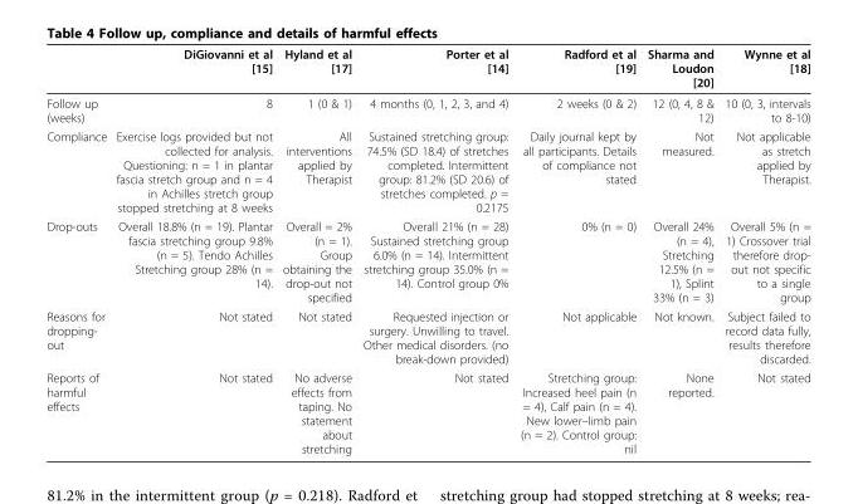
<table><thead><tr><td></td><td>DiGiovanni et al [15]</td><td>Hyland et al [17]</td><td>Porter et al [14]</td><td>Radford et al [19]</td><td>Sharma and Loudon [20]</td><td>Wynne et al [18]</td></tr></thead><tbody><tr><td>Follow up (weeks)</td><td>8</td><td>1 (0 &amp; 1)</td><td>4 months (0, 1, 2, 3, and 4)</td><td>2 weeks (0 &amp; 2)</td><td>12 (0, 4, 8 &amp; 12)</td><td>10 (0, 3, intervals to 8-10)</td></tr><tr><td>Compliance</td><td>Exercise logs provided but not collected for analysis. Questioning: n = 1 in plantar fascia stretch group and n = 4 in Achilles stretch group stopped stretching at 8 weeks</td><td>All interventions applied by Therapist</td><td>Sustained stretching group: 74.5% (SD 18.4) of stretches completed. Intermittent group: 81.2% (SD 20.6) of stretches completed. p = 0.2175</td><td>Daily journal kept by all participants. Details of compliance not stated</td><td>Not measured.</td><td>Not applicable as stretch applied by Therapist.</td></tr><tr><td>Drop-outs</td><td>Overall 18.8% (n = 19). Plantar fascia stretching group 9.8% (n = 5). Tendo Achilles Stretching group 28% (n = 14).</td><td>Overall = 2% (n = 1). Group obtaining the drop-out not specified</td><td>Overall 21% (n = 28) Sustained stretching group 6.0% (n = 14). Intermittent stretching group 35.0% (n = 14). Control group 0%</td><td>0% (n = 0)</td><td>Overall 24% (n = 4), Stretching 12.5% (n = 1), Splint 33% (n = 3)</td><td>Overall 5% (n = 1) Crossover trial therefore drop- out not specific to a single group</td></tr><tr><td>Reasons for dropping- out</td><td>Not stated</td><td>Not stated</td><td>Requested injection or surgery. Unwilling to travel. Other medical disorders. (no break-down provided)</td><td>Not applicable</td><td>Not known.</td><td>Subject failed to record data fully, results therefore discarded.</td></tr><tr><td>Reports of harmful effects</td><td>Not stated</td><td>No adverse effects from taping. No statement about stretching</td><td>Not stated</td><td>Stretching group: Increased heel pain (n = 4), Calf pain (n = 4). New lower–limb pain (n = 2). Control group: nil</td><td>None reported.</td><td>Not stated</td></tr></tbody></table>